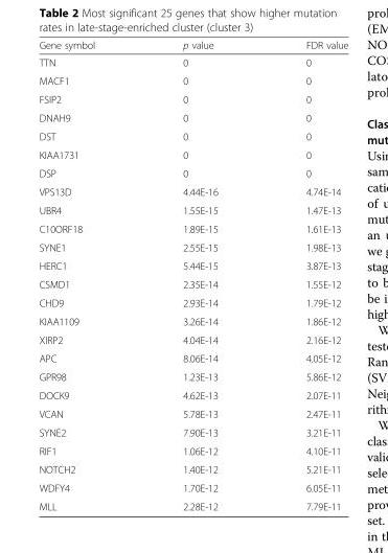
<table><thead><tr><td>Gene symbol</td><td>p value</td><td>FDR value</td></tr></thead><tbody><tr><td>TTN</td><td>0</td><td>0</td></tr><tr><td>MACF1</td><td>0</td><td>0</td></tr><tr><td>FSIP2</td><td>0</td><td>0</td></tr><tr><td>DNAH9</td><td>0</td><td>0</td></tr><tr><td>DST</td><td>0</td><td>0</td></tr><tr><td>KIAA1731</td><td>0</td><td>0</td></tr><tr><td>DSP</td><td>0</td><td>0</td></tr><tr><td>VPS13D</td><td>4.44E-16</td><td>4.74E-14</td></tr><tr><td>UBR4</td><td>1.55E-15</td><td>1.47E-13</td></tr><tr><td>C10ORF18</td><td>1.89E-15</td><td>1.61E-13</td></tr><tr><td>SYNE1</td><td>2.55E-15</td><td>1.98E-13</td></tr><tr><td>HERC1</td><td>5.44E-15</td><td>3.87E-13</td></tr><tr><td>CSMD1</td><td>2.35E-14</td><td>1.55E-12</td></tr><tr><td>CHD9</td><td>2.93E-14</td><td>1.79E-12</td></tr><tr><td>KIAA1109</td><td>3.26E-14</td><td>1.86E-12</td></tr><tr><td>XIRP2</td><td>4.04E-14</td><td>2.16E-12</td></tr><tr><td>APC</td><td>8.06E-14</td><td>4.05E-12</td></tr><tr><td>GPR98</td><td>1.23E-13</td><td>5.86E-12</td></tr><tr><td>DOCK9</td><td>4.62E-13</td><td>2.07E-11</td></tr><tr><td>VCAN</td><td>5.78E-13</td><td>2.47E-11</td></tr><tr><td>SYNE2</td><td>7.90E-13</td><td>3.21E-11</td></tr><tr><td>RIF1</td><td>1.06E-12</td><td>4.10E-11</td></tr><tr><td>NOTCH2</td><td>1.40E-12</td><td>5.21E-11</td></tr><tr><td>WDFY4</td><td>1.70E-12</td><td>6.05E-11</td></tr><tr><td>MLL</td><td>2.28E-12</td><td>7.79E-11</td></tr></tbody></table>